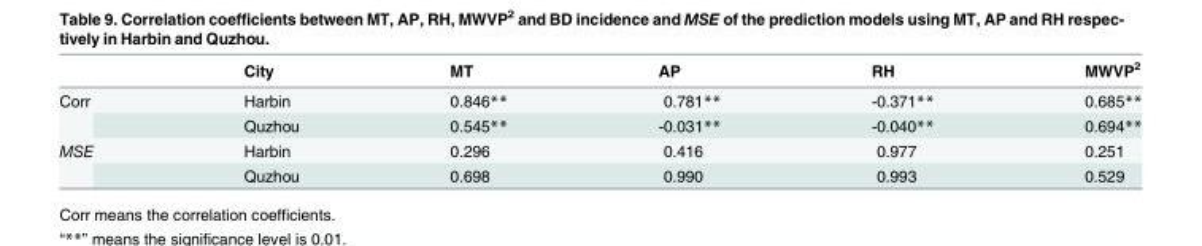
<table><thead><tr><td></td><td>City</td><td>MT</td><td>AP</td><td>RH</td><td>MWVP<sup>2</sup></td></tr></thead><tbody><tr><td rowspan="2">Corr</td><td>Harbin</td><td>0.846**</td><td>0.781**</td><td>-0.371**</td><td>0.685**</td></tr><tr><td>Quzhou</td><td>0.545**</td><td>-0.031**</td><td>-0.040**</td><td>0.694**</td></tr><tr><td rowspan="2">MSE</td><td>Harbin</td><td>0.296</td><td>0.416</td><td>0.977</td><td>0.251</td></tr><tr><td>Quzhou</td><td>0.698</td><td>0.990</td><td>0.993</td><td>0.529</td></tr></tbody></table>